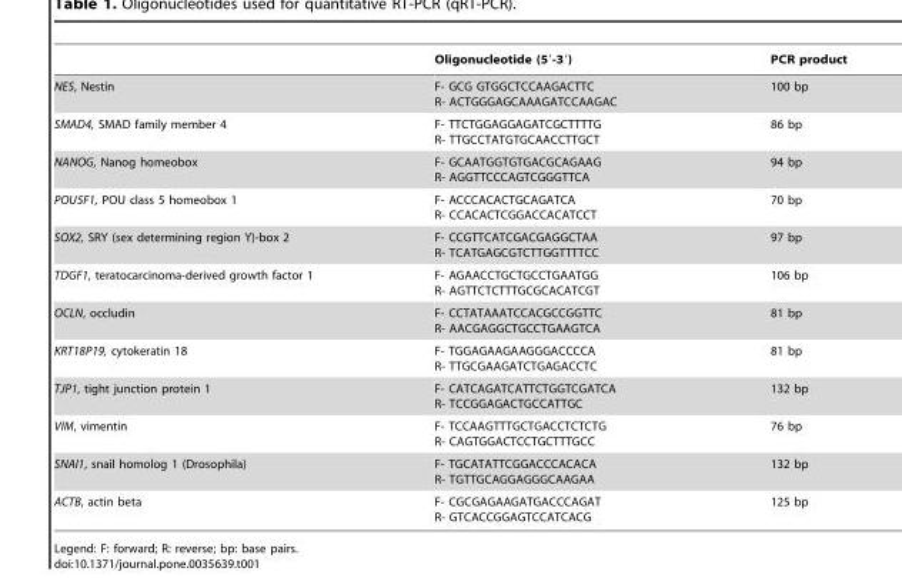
<table><thead><tr><td></td><td>Oligonucleotide (5′-3′)</td><td>PCR product</td></tr></thead><tbody><tr><td>NES, Nestin</td><td>F- GCG GTGGCTCCAAGACTTC R- ACTGGGAGCAAAGATCCAAGAC</td><td>100 bp</td></tr><tr><td>SMAD4, SMAD family member 4</td><td>F- TTCTGGAGGAGATCGCTTTTG R- TTGCCTATGTGCAACCTTGCT</td><td>86 bp</td></tr><tr><td>NANOG, Nanog homeobox</td><td>F- GCAATGGTGTGACGCAGAAG R- AGGTTCCCAGTCGGGTTCA</td><td>94 bp</td></tr><tr><td>POU5F1, POU class 5 homeobox 1</td><td>F- ACCCACACTGCAGATCA R- CCACACTCGGACCACATCCT</td><td>70 bp</td></tr><tr><td>SOX2, SRY (sex determining region Y)-box 2</td><td>F- CCGTTCATCGACGAGGCTAA R- TCATGAGCGTCTTGGTTTTCC</td><td>97 bp</td></tr><tr><td>TDGF1, teratocarcinoma-derived growth factor 1</td><td>F- AGAACCTGCTGCCTGAATGG R- AGTTCTCTTTGCGCACATCGT</td><td>106 bp</td></tr><tr><td>OCLN, occludin</td><td>F- CCTATAAATCCACGCCGGTTC R- AACGAGGCTGCCTGAAGTCA</td><td>81 bp</td></tr><tr><td>KRT18P19, cytokeratin 18</td><td>F- TGGAGAAGAAGGGACCCCA R- TTGCGAAGATCTGAGACCTC</td><td>81 bp</td></tr><tr><td>TJP1, tight junction protein 1</td><td>F- CATCAGATCATTCTGGTCGATCA R- TCCGGAGACTGCCATTGC</td><td>132 bp</td></tr><tr><td>VIM, vimentin</td><td>F- TCCAAGTTTGCTGACCTCTCTG R- CAGTGGACTCCTGCTTTGCC</td><td>76 bp</td></tr><tr><td>SNAI1, snail homolog 1 (Drosophila)</td><td>F- TGCATATTCGGACCCACACA R- TGTTGCAGGAGGGCAAGAA</td><td>132 bp</td></tr><tr><td>ACTB, actin beta</td><td>F- CGCGAGAAGATGACCCAGAT R- GTCACCGGAGTCCATCACG</td><td>125 bp</td></tr></tbody></table>